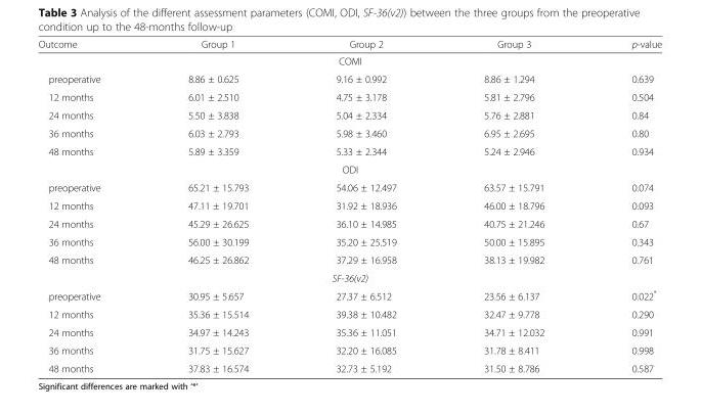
<table><thead><tr><td>Outcome</td><td>Group 1</td><td>Group 2</td><td>Group 3</td><td>p-value</td></tr></thead><tbody><tr><td colspan="5">COMI</td></tr><tr><td>preoperative</td><td>8.86 ± 0.625</td><td>9.16 ± 0.992</td><td>8.86 ± 1.294</td><td>0.639</td></tr><tr><td>12 months</td><td>6.01 ± 2.510</td><td>4.75 ± 3.178</td><td>5.81 ± 2.796</td><td>0.504</td></tr><tr><td>24 months</td><td>5.50 ± 3.838</td><td>5.04 ± 2.334</td><td>5.76 ± 2.881</td><td>0.84</td></tr><tr><td>36 months</td><td>6.03 ± 2.793</td><td>5.98 ± 3.460</td><td>6.95 ± 2.695</td><td>0.80</td></tr><tr><td>48 months</td><td>5.89 ± 3.359</td><td>5.33 ± 2.344</td><td>5.24 ± 2.946</td><td>0.934</td></tr><tr><td colspan="5">ODI</td></tr><tr><td>preoperative</td><td>65.21 ± 15.793</td><td>54.06 ± 12.497</td><td>63.57 ± 15.791</td><td>0.074</td></tr><tr><td>12 months</td><td>47.11 ± 19.701</td><td>31.92 ± 18.936</td><td>46.00 ± 18.796</td><td>0.093</td></tr><tr><td>24 months</td><td>45.29 ± 26.625</td><td>36.10 ± 14.985</td><td>40.75 ± 21.246</td><td>0.67</td></tr><tr><td>36 months</td><td>56.00 ± 30.199</td><td>35.20 ± 25.519</td><td>50.00 ± 15.895</td><td>0.343</td></tr><tr><td>48 months</td><td>46.25 ± 26.862</td><td>37.29 ± 16.958</td><td>38.13 ± 19.982</td><td>0.761</td></tr><tr><td colspan="5">SF-36(v2)</td></tr><tr><td>preoperative</td><td>30.95 ± 5.657</td><td>27.37 ± 6.512</td><td>23.56 ± 6.137</td><td>0.022*</td></tr><tr><td>12 months</td><td>35.36 ± 15.514</td><td>39.38 ± 10.482</td><td>32.47 ± 9.778</td><td>0.290</td></tr><tr><td>24 months</td><td>34.97 ± 14.243</td><td>35.36 ± 11.051</td><td>34.71 ± 12.032</td><td>0.991</td></tr><tr><td>36 months</td><td>31.75 ± 15.627</td><td>32.20 ± 16.085</td><td>31.78 ± 8.411</td><td>0.998</td></tr><tr><td>48 months</td><td>37.83 ± 16.574</td><td>32.73 ± 5.192</td><td>31.50 ± 8.786</td><td>0.587</td></tr></tbody></table>